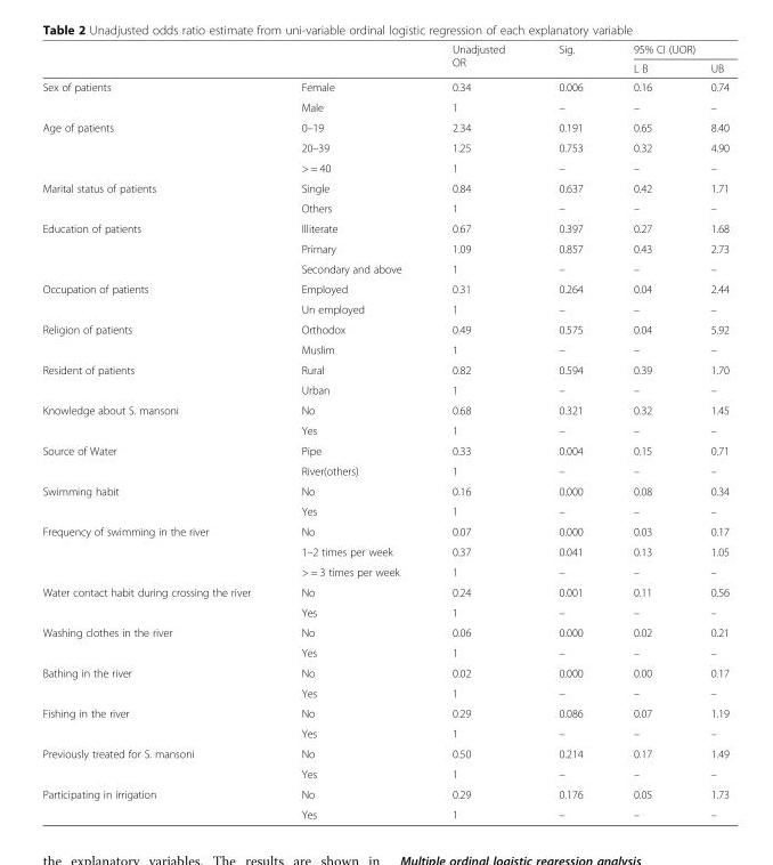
<table><thead><tr><td rowspan="2"></td><td rowspan="2"></td><td rowspan="2">Unadjusted OR</td><td rowspan="2">Sig.</td><td colspan="2">95% CI (UOR)</td></tr><tr><td>L B</td><td>UB</td></tr></thead><tbody><tr><td rowspan="2">Sex of patients</td><td>Female</td><td>0.34</td><td>0.006</td><td>0.16</td><td>0.74</td></tr><tr><td>Male</td><td>1</td><td>–</td><td>–</td><td>–</td></tr><tr><td rowspan="3">Age of patients</td><td>0–19</td><td>2.34</td><td>0.191</td><td>0.65</td><td>8.40</td></tr><tr><td>20–39</td><td>1.25</td><td>0.753</td><td>0.32</td><td>4.90</td></tr><tr><td>&gt; = 40</td><td>1</td><td>–</td><td>–</td><td>–</td></tr><tr><td rowspan="2">Marital status of patients</td><td>Single</td><td>0.84</td><td>0.637</td><td>0.42</td><td>1.71</td></tr><tr><td>Others</td><td>1</td><td>–</td><td>–</td><td>–</td></tr><tr><td rowspan="3">Education of patients</td><td>Illiterate</td><td>0.67</td><td>0.397</td><td>0.27</td><td>1.68</td></tr><tr><td>Primary</td><td>1.09</td><td>0.857</td><td>0.43</td><td>2.73</td></tr><tr><td>Secondary and above</td><td>1</td><td>–</td><td>–</td><td>–</td></tr><tr><td rowspan="2">Occupation of patients</td><td>Employed</td><td>0.31</td><td>0.264</td><td>0.04</td><td>2.44</td></tr><tr><td>Un employed</td><td>1</td><td>–</td><td>–</td><td>–</td></tr><tr><td rowspan="2">Religion of patients</td><td>Orthodox</td><td>0.49</td><td>0.575</td><td>0.04</td><td>5.92</td></tr><tr><td>Muslim</td><td>1</td><td>–</td><td>–</td><td>–</td></tr><tr><td rowspan="2">Resident of patients</td><td>Rural</td><td>0.82</td><td>0.594</td><td>0.39</td><td>1.70</td></tr><tr><td>Urban</td><td>1</td><td>–</td><td>–</td><td>–</td></tr><tr><td rowspan="2">Knowledge about S. mansoni</td><td>No</td><td>0.68</td><td>0.321</td><td>0.32</td><td>1.45</td></tr><tr><td>Yes</td><td>1</td><td>–</td><td>–</td><td>–</td></tr><tr><td rowspan="2">Source of Water</td><td>Pipe</td><td>0.33</td><td>0.004</td><td>0.15</td><td>0.71</td></tr><tr><td>River(others)</td><td>1</td><td>–</td><td>–</td><td>–</td></tr><tr><td rowspan="2">Swimming habit</td><td>No</td><td>0.16</td><td>0.000</td><td>0.08</td><td>0.34</td></tr><tr><td>Yes</td><td>1</td><td>–</td><td>–</td><td>–</td></tr><tr><td rowspan="3">Frequency of swimming in the river</td><td>No</td><td>0.07</td><td>0.000</td><td>0.03</td><td>0.17</td></tr><tr><td>1–2 times per week</td><td>0.37</td><td>0.041</td><td>0.13</td><td>1.05</td></tr><tr><td>&gt; = 3 times per week</td><td>1</td><td>–</td><td>–</td><td>–</td></tr><tr><td rowspan="2">Water contact habit during crossing the river</td><td>No</td><td>0.24</td><td>0.001</td><td>0.11</td><td>0.56</td></tr><tr><td>Yes</td><td>1</td><td>–</td><td>–</td><td>–</td></tr><tr><td rowspan="2">Washing clothes in the river</td><td>No</td><td>0.06</td><td>0.000</td><td>0.02</td><td>0.21</td></tr><tr><td>Yes</td><td>1</td><td>–</td><td>–</td><td>–</td></tr><tr><td rowspan="2">Bathing in the river</td><td>No</td><td>0.02</td><td>0.000</td><td>0.00</td><td>0.17</td></tr><tr><td>Yes</td><td>1</td><td>–</td><td>–</td><td>–</td></tr><tr><td rowspan="2">Fishing in the river</td><td>No</td><td>0.29</td><td>0.086</td><td>0.07</td><td>1.19</td></tr><tr><td>Yes</td><td>1</td><td>–</td><td>–</td><td>–</td></tr><tr><td rowspan="2">Previously treated for S. mansoni</td><td>No</td><td>0.50</td><td>0.214</td><td>0.17</td><td>1.49</td></tr><tr><td>Yes</td><td>1</td><td>–</td><td>–</td><td>–</td></tr><tr><td rowspan="2">Participating in irrigation</td><td>No</td><td>0.29</td><td>0.176</td><td>0.05</td><td>1.73</td></tr><tr><td>Yes</td><td>1</td><td>–</td><td>–</td><td>–</td></tr></tbody></table>